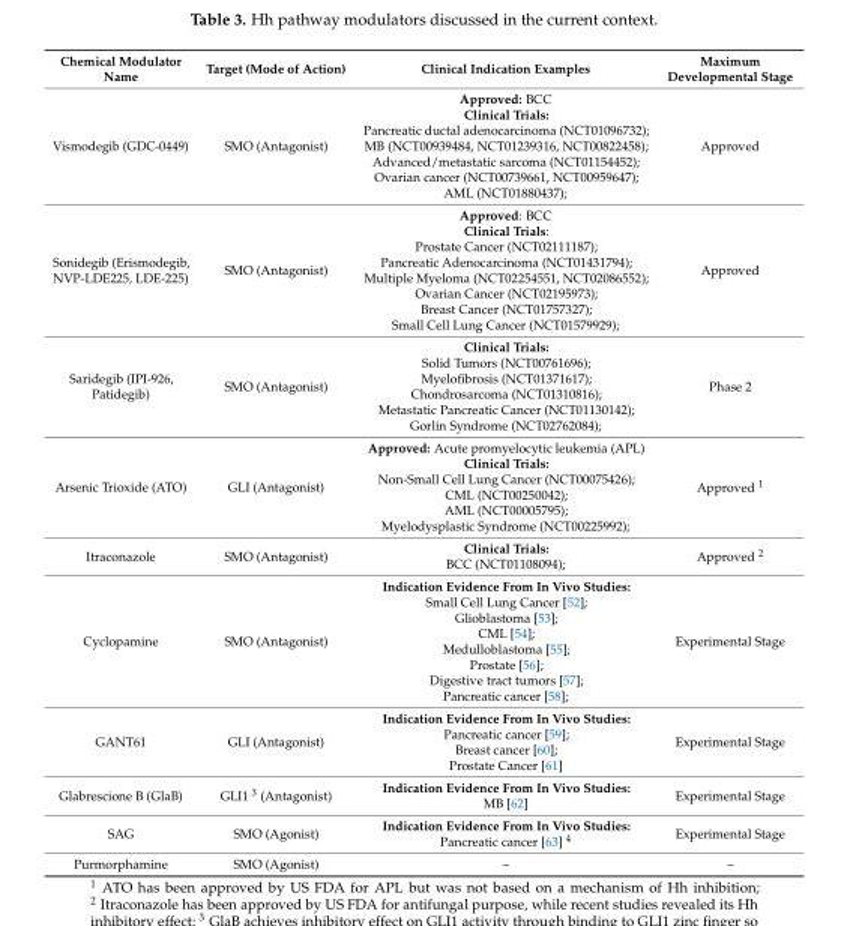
<table><thead><tr><td>Chemical Modulator Name</td><td>Target (Mode of Action)</td><td>Clinical Indication Examples</td><td>Maximum Developmental Stage</td></tr></thead><tbody><tr><td>Vismodegib (GDC-0449)</td><td>SMO (Antagonist)</td><td>Approved: BCC Clinical Trials: Pancreatic ductal adenocarcinoma (NCT01096732); MB (NCT00939484, NCT01239316, NCT00822458); Advanced/metastatic sarcoma (NCT01154452); Ovarian cancer (NCT00739661, NCT00959647); AML (NCT01880437);</td><td>Approved</td></tr><tr><td>Sonidegib (Erismodegib, NVP-LDE225, LDE-225)</td><td>SMO (Antagonist)</td><td>Approved: BCC Clinical Trials: Prostate Cancer (NCT02111187); Pancreatic Adenocarcinoma (NCT01431794); Multiple Myeloma (NCT02254551, NCT02086552); Ovarian Cancer (NCT02195973); Breast Cancer (NCT01757327); Small Cell Lung Cancer (NCT01579929);</td><td>Approved</td></tr><tr><td>Saridegib (IPI-926, Patidegib)</td><td>SMO (Antagonist)</td><td>Clinical Trials: Solid Tumors (NCT00761696); Myelofibrosis (NCT01371617); Chondrosarcoma (NCT01310816); Metastatic Pancreatic Cancer (NCT01130142); Gorlin Syndrome (NCT02762084);</td><td>Phase 2</td></tr><tr><td>Arsenic Trioxide (ATO)</td><td>GLI (Antagonist)</td><td>Approved: Acute promyelocytic leukemia (APL) Clinical Trials: Non-Small Cell Lung Cancer (NCT00075426); CML (NCT00250042); AML (NCT00005795); Myelodysplastic Syndrome (NCT00225992);</td><td>Approved <sup>1</sup></td></tr><tr><td>Itraconazole</td><td>SMO (Antagonist)</td><td>Clinical Trials: BCC (NCT01108094);</td><td>Approved <sup>2</sup></td></tr><tr><td>Cyclopamine</td><td>SMO (Antagonist)</td><td>Indication Evidence From In Vivo Studies: Small Cell Lung Cancer [52]; Glioblastoma [53]; CML [54]; Medulloblastoma [55]; Prostate [56]; Digestive tract tumors [57]; Pancreatic cancer [58];</td><td>Experimental Stage</td></tr><tr><td>GANT61</td><td>GLI (Antagonist)</td><td>Indication Evidence From In Vivo Studies: Pancreatic cancer [59]; Breast cancer [60]; Prostate Cancer [61]</td><td>Experimental Stage</td></tr><tr><td>Glabrescione B (GlaB)</td><td>GLI1 <sup>3</sup> (Antagonist)</td><td>Indication Evidence From In Vivo Studies: MB [62]</td><td>Experimental Stage</td></tr><tr><td>SAG</td><td>SMO (Agonist)</td><td>Indication Evidence From In Vivo Studies: Pancreatic cancer [63] <sup>4</sup></td><td>Experimental Stage</td></tr><tr><td>Purmorphamine</td><td>SMO (Agonist)</td><td>–</td><td>–</td></tr></tbody></table>